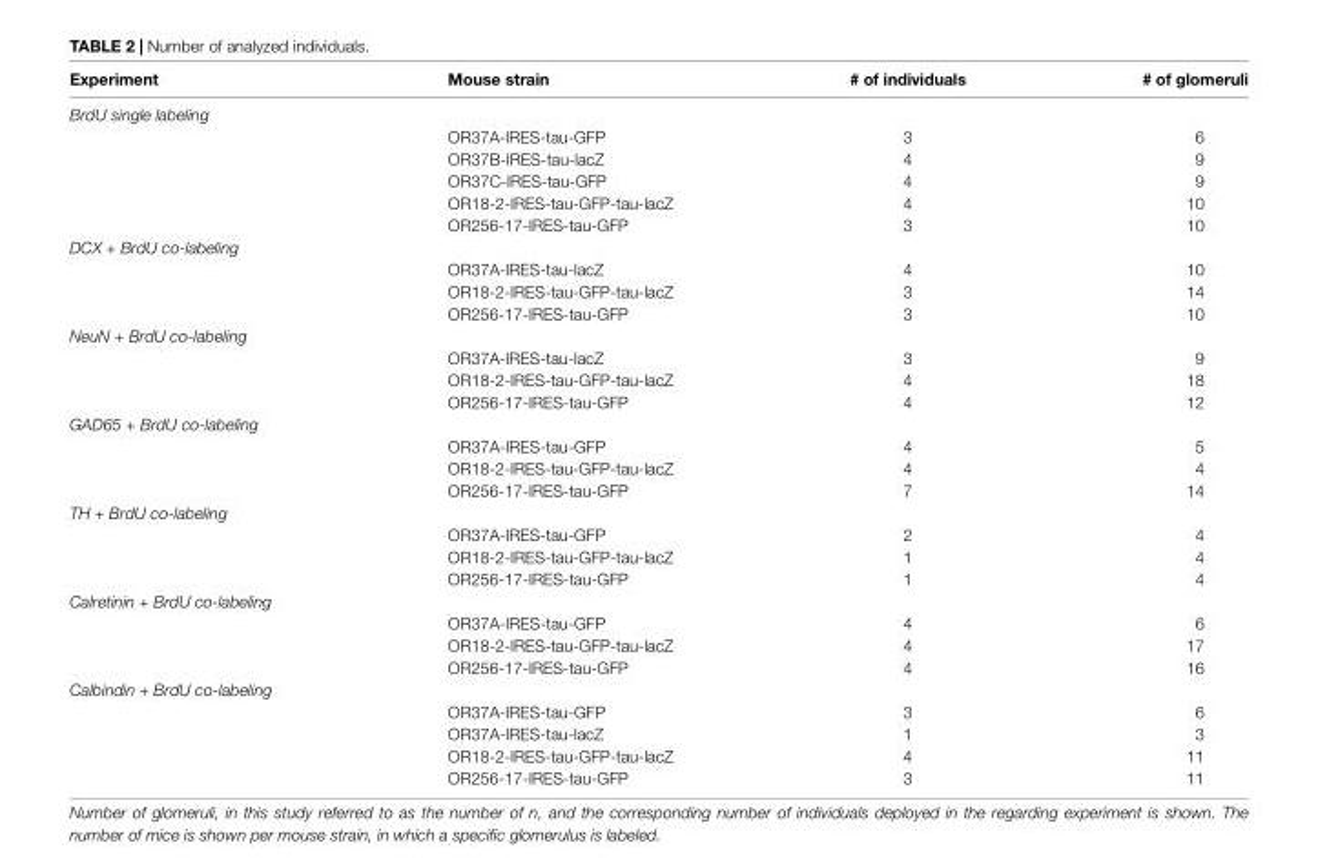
<table><thead><tr><td>Experiment</td><td>Mouse strain</td><td># of individuals</td><td># of glomeruli</td></tr></thead><tbody><tr><td colspan="4">BrdU single labeling</td></tr><tr><td></td><td>OR37A-IRES-tau-GFP</td><td>3</td><td>6</td></tr><tr><td></td><td>OR37B-IRES-tau-lacZ</td><td>4</td><td>9</td></tr><tr><td></td><td>OR37C-IRES-tau-GFP</td><td>4</td><td>9</td></tr><tr><td></td><td>OR18-2-IRES-tau-GFP-tau-lacZ</td><td>4</td><td>10</td></tr><tr><td></td><td>OR256-17-IRES-tau-GFP</td><td>3</td><td>10</td></tr><tr><td colspan="4">DCX + BrdU co-labeling</td></tr><tr><td></td><td>OR37A-IRES-tau-lacZ</td><td>4</td><td>10</td></tr><tr><td></td><td>OR18-2-IRES-tau-GFP-tau-lacZ</td><td>3</td><td>14</td></tr><tr><td></td><td>OR256-17-IRES-tau-GFP</td><td>3</td><td>10</td></tr><tr><td colspan="4">NeuN + BrdU co-labeling</td></tr><tr><td></td><td>OR37A-IRES-tau-lacZ</td><td>3</td><td>9</td></tr><tr><td></td><td>OR18-2-IRES-tau-GFP-tau-lacZ</td><td>4</td><td>18</td></tr><tr><td></td><td>OR256-17-IRES-tau-GFP</td><td>4</td><td>12</td></tr><tr><td colspan="4">GAD65 + BrdU co-labeling</td></tr><tr><td></td><td>OR37A-IRES-tau-GFP</td><td>4</td><td>5</td></tr><tr><td></td><td>OR18-2-IRES-tau-GFP-tau-lacZ</td><td>4</td><td>4</td></tr><tr><td></td><td>OR256-17-IRES-tau-GFP</td><td>7</td><td>14</td></tr><tr><td colspan="4">TH + BrdU co-labeling</td></tr><tr><td></td><td>OR37A-IRES-tau-GFP</td><td>2</td><td>4</td></tr><tr><td></td><td>OR18-2-IRES-tau-GFP-tau-lacZ</td><td>1</td><td>4</td></tr><tr><td></td><td>OR256-17-IRES-tau-GFP</td><td>1</td><td>4</td></tr><tr><td colspan="4">Calretinin + BrdU co-labeling</td></tr><tr><td></td><td>OR37A-IRES-tau-GFP</td><td>4</td><td>6</td></tr><tr><td></td><td>OR18-2-IRES-tau-GFP-tau-lacZ</td><td>4</td><td>17</td></tr><tr><td></td><td>OR256-17-IRES-tau-GFP</td><td>4</td><td>16</td></tr><tr><td colspan="4">Calbindin + BrdU co-labeling</td></tr><tr><td></td><td>OR37A-IRES-tau-GFP</td><td>3</td><td>6</td></tr><tr><td></td><td>OR37A-IRES-tau-lacZ</td><td>1</td><td>3</td></tr><tr><td></td><td>OR18-2-IRES-tau-GFP-tau-lacZ</td><td>4</td><td>11</td></tr><tr><td></td><td>OR256-17-IRES-tau-GFP</td><td>3</td><td>11</td></tr></tbody></table>